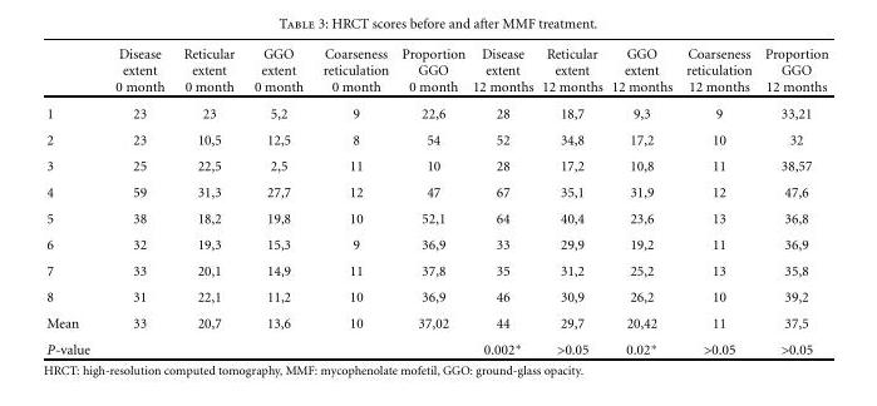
<table><thead><tr><td></td><td>Disease extent 0 month</td><td>Reticular extent 0 month</td><td>GGO extent 0 month</td><td>Coarseness reticulation 0 month</td><td>Proportion GGO 0 month</td><td>Disease extent 12 months</td><td>Reticular extent 12 months</td><td>GGO extent 12 months</td><td>Coarseness reticulation 12 months</td><td>Proportion GGO 12 months</td></tr></thead><tbody><tr><td>1</td><td>23</td><td>23</td><td>5,2</td><td>9</td><td>22,6</td><td>28</td><td>18,7</td><td>9,3</td><td>9</td><td>33,21</td></tr><tr><td>2</td><td>23</td><td>10,5</td><td>12,5</td><td>8</td><td>54</td><td>52</td><td>34,8</td><td>17,2</td><td>10</td><td>32</td></tr><tr><td>3</td><td>25</td><td>22,5</td><td>2,5</td><td>11</td><td>10</td><td>28</td><td>17,2</td><td>10,8</td><td>11</td><td>38,57</td></tr><tr><td>4</td><td>59</td><td>31,3</td><td>27,7</td><td>12</td><td>47</td><td>67</td><td>35,1</td><td>31,9</td><td>12</td><td>47,6</td></tr><tr><td>5</td><td>38</td><td>18,2</td><td>19,8</td><td>10</td><td>52,1</td><td>64</td><td>40,4</td><td>23,6</td><td>13</td><td>36,8</td></tr><tr><td>6</td><td>32</td><td>19,3</td><td>15,3</td><td>9</td><td>36,9</td><td>33</td><td>29,9</td><td>19,2</td><td>11</td><td>36,9</td></tr><tr><td>7</td><td>33</td><td>20,1</td><td>14,9</td><td>11</td><td>37,8</td><td>35</td><td>31,2</td><td>25,2</td><td>13</td><td>35,8</td></tr><tr><td>8</td><td>31</td><td>22,1</td><td>11,2</td><td>10</td><td>36,9</td><td>46</td><td>30,9</td><td>26,2</td><td>10</td><td>39,2</td></tr><tr><td>Mean</td><td>33</td><td>20,7</td><td>13,6</td><td>10</td><td>37,02</td><td>44</td><td>29,7</td><td>20,42</td><td>11</td><td>37,5</td></tr><tr><td>P-value</td><td></td><td></td><td></td><td></td><td></td><td>0.002∗</td><td>&gt;0.05</td><td>0.02∗</td><td>&gt;0.05</td><td>&gt;0.05</td></tr></tbody></table>